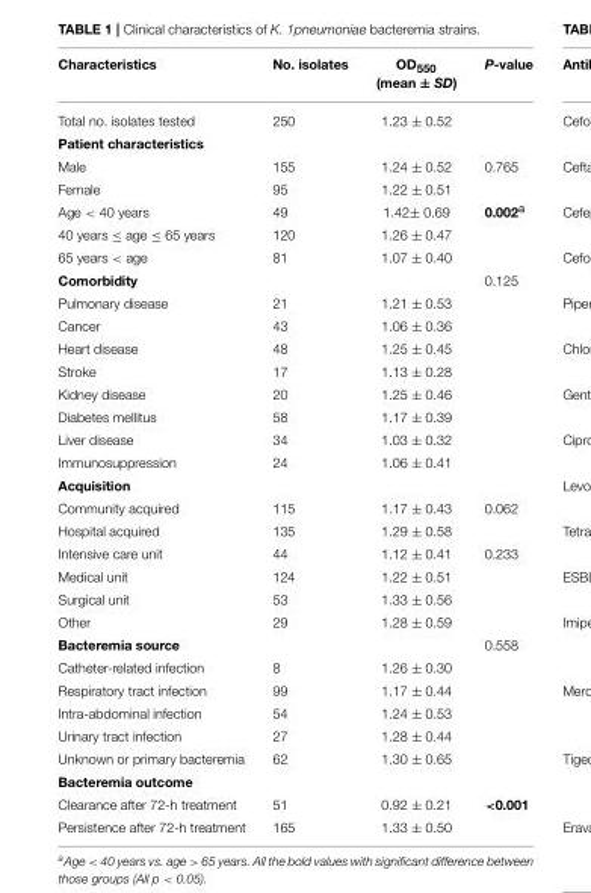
<table><thead><tr><td>Characteristics</td><td>No. isolates</td><td>OD<sub>550</sub> (mean ± SD)</td><td>P-value</td></tr></thead><tbody><tr><td>Total no. isolates tested</td><td>250</td><td>1.23 ± 0.52</td><td></td></tr><tr><td colspan="4">Patient characteristics</td></tr><tr><td>Male</td><td>155</td><td>1.24 ± 0.52</td><td>0.765</td></tr><tr><td>Female</td><td>95</td><td>1.22 ± 0.51</td><td></td></tr><tr><td>Age &lt; 40 years</td><td>49</td><td>1.42± 0.69</td><td>0.002<sup>a</sup></td></tr><tr><td>40 years ≤ age ≤ 65 years</td><td>120</td><td>1.26 ± 0.47</td><td></td></tr><tr><td>65 years &lt; age</td><td>81</td><td>1.07 ± 0.40</td><td></td></tr><tr><td>Comorbidity</td><td></td><td></td><td>0.125</td></tr><tr><td>Pulmonary disease</td><td>21</td><td>1.21 ± 0.53</td><td></td></tr><tr><td>Cancer</td><td>43</td><td>1.06 ± 0.36</td><td></td></tr><tr><td>Heart disease</td><td>48</td><td>1.25 ± 0.45</td><td></td></tr><tr><td>Stroke</td><td>17</td><td>1.13 ± 0.28</td><td></td></tr><tr><td>Kidney disease</td><td>20</td><td>1.25 ± 0.46</td><td></td></tr><tr><td>Diabetes mellitus</td><td>58</td><td>1.17 ± 0.39</td><td></td></tr><tr><td>Liver disease</td><td>34</td><td>1.03 ± 0.32</td><td></td></tr><tr><td>Immunosuppression</td><td>24</td><td>1.06 ± 0.41</td><td></td></tr><tr><td colspan="4">Acquisition</td></tr><tr><td>Community acquired</td><td>115</td><td>1.17 ± 0.43</td><td>0.062</td></tr><tr><td>Hospital acquired</td><td>135</td><td>1.29 ± 0.58</td><td></td></tr><tr><td>Intensive care unit</td><td>44</td><td>1.12 ± 0.41</td><td>0.233</td></tr><tr><td>Medical unit</td><td>124</td><td>1.22 ± 0.51</td><td></td></tr><tr><td>Surgical unit</td><td>53</td><td>1.33 ± 0.56</td><td></td></tr><tr><td>Other</td><td>29</td><td>1.28 ± 0.59</td><td></td></tr><tr><td>Bacteremia source</td><td></td><td></td><td>0.558</td></tr><tr><td>Catheter-related infection</td><td>8</td><td>1.26 ± 0.30</td><td></td></tr><tr><td>Respiratory tract infection</td><td>99</td><td>1.17 ± 0.44</td><td></td></tr><tr><td>Intra-abdominal infection</td><td>54</td><td>1.24 ± 0.53</td><td></td></tr><tr><td>Urinary tract infection</td><td>27</td><td>1.28 ± 0.44</td><td></td></tr><tr><td>Unknown or primary bacteremia</td><td>62</td><td>1.30 ± 0.65</td><td></td></tr><tr><td colspan="4">Bacteremia outcome</td></tr><tr><td>Clearance after 72-h treatment</td><td>51</td><td>0.92 ± 0.21</td><td>&lt;0.001</td></tr><tr><td>Persistence after 72-h treatment</td><td>165</td><td>1.33 ± 0.50</td><td></td></tr></tbody></table>